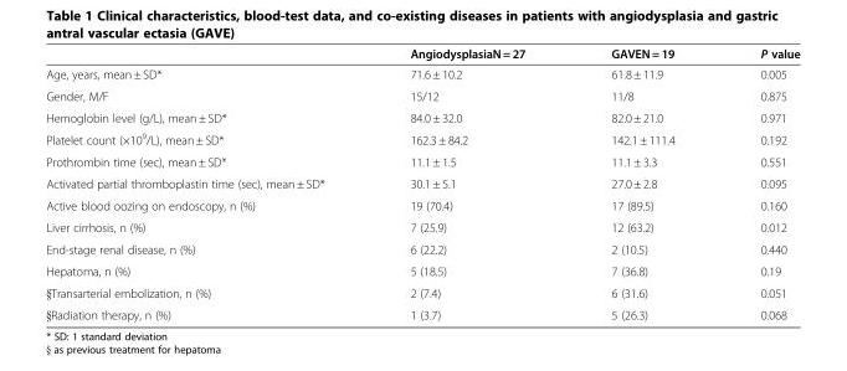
<table><thead><tr><td></td><td>AngiodysplasiaN = 27</td><td>GAVEN = 19</td><td>P value</td></tr></thead><tbody><tr><td>Age, years, mean ± SD*</td><td>71.6 ± 10.2</td><td>61.8 ± 11.9</td><td>0.005</td></tr><tr><td>Gender, M/F</td><td>15/12</td><td>11/8</td><td>0.875</td></tr><tr><td>Hemoglobin level (g/L), mean ± SD*</td><td>84.0 ± 32.0</td><td>82.0 ± 21.0</td><td>0.971</td></tr><tr><td>Platelet count (×10<sup>9</sup>/L), mean ± SD*</td><td>162.3 ± 84.2</td><td>142.1 ± 111.4</td><td>0.192</td></tr><tr><td>Prothrombin time (sec), mean ± SD*</td><td>11.1 ± 1.5</td><td>11.1 ± 3.3</td><td>0.551</td></tr><tr><td>Activated partial thromboplastin time (sec), mean ± SD*</td><td>30.1 ± 5.1</td><td>27.0 ± 2.8</td><td>0.095</td></tr><tr><td>Active blood oozing on endoscopy, n (%)</td><td>19 (70.4)</td><td>17 (89.5)</td><td>0.160</td></tr><tr><td>Liver cirrhosis, n (%)</td><td>7 (25.9)</td><td>12 (63.2)</td><td>0.012</td></tr><tr><td>End-stage renal disease, n (%)</td><td>6 (22.2)</td><td>2 (10.5)</td><td>0.440</td></tr><tr><td>Hepatoma, n (%)</td><td>5 (18.5)</td><td>7 (36.8)</td><td>0.19</td></tr><tr><td>§Transarterial embolization, n (%)</td><td>2 (7.4)</td><td>6 (31.6)</td><td>0.051</td></tr><tr><td>§Radiation therapy, n (%)</td><td>1 (3.7)</td><td>5 (26.3)</td><td>0.068</td></tr></tbody></table>